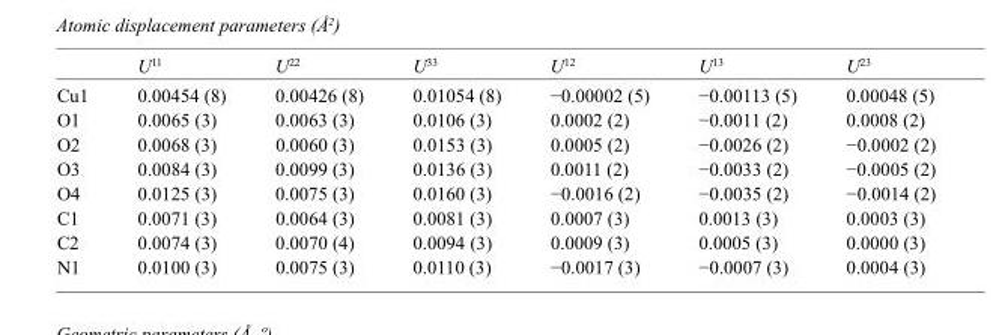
<table><thead><tr><td></td><td>U<sup>11</sup></td><td>U<sup>22</sup></td><td>U<sup>33</sup></td><td>U<sup>12</sup></td><td>U<sup>13</sup></td><td>U<sup>23</sup></td></tr></thead><tbody><tr><td>Cu1</td><td>0.00454 (8)</td><td>0.00426 (8)</td><td>0.01054 (8)</td><td>−0.00002 (5)</td><td>−0.00113 (5)</td><td>0.00048 (5)</td></tr><tr><td>O1</td><td>0.0065 (3)</td><td>0.0063 (3)</td><td>0.0106 (3)</td><td>0.0002 (2)</td><td>−0.0011 (2)</td><td>0.0008 (2)</td></tr><tr><td>O2</td><td>0.0068 (3)</td><td>0.0060 (3)</td><td>0.0153 (3)</td><td>0.0005 (2)</td><td>−0.0026 (2)</td><td>−0.0002 (2)</td></tr><tr><td>O3</td><td>0.0084 (3)</td><td>0.0099 (3)</td><td>0.0136 (3)</td><td>0.0011 (2)</td><td>−0.0033 (2)</td><td>−0.0005 (2)</td></tr><tr><td>O4</td><td>0.0125 (3)</td><td>0.0075 (3)</td><td>0.0160 (3)</td><td>−0.0016 (2)</td><td>−0.0035 (2)</td><td>−0.0014 (2)</td></tr><tr><td>C1</td><td>0.0071 (3)</td><td>0.0064 (3)</td><td>0.0081 (3)</td><td>0.0007 (3)</td><td>0.0013 (3)</td><td>0.0003 (3)</td></tr><tr><td>C2</td><td>0.0074 (3)</td><td>0.0070 (4)</td><td>0.0094 (3)</td><td>0.0009 (3)</td><td>0.0005 (3)</td><td>0.0000 (3)</td></tr><tr><td>N1</td><td>0.0100 (3)</td><td>0.0075 (3)</td><td>0.0110 (3)</td><td>−0.0017 (3)</td><td>−0.0007 (3)</td><td>0.0004 (3)</td></tr></tbody></table>